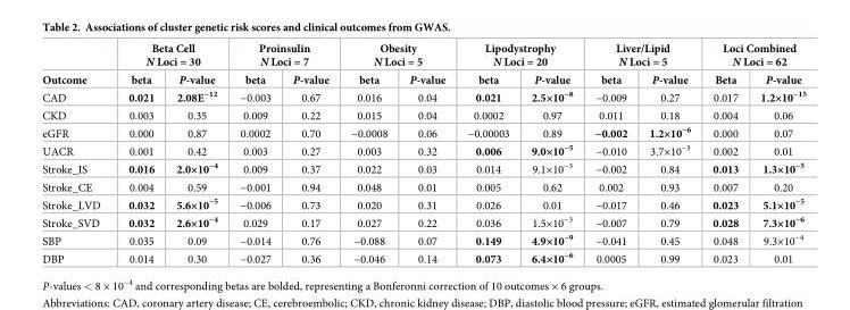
<table><thead><tr><td rowspan="2">Outcome</td><td colspan="2">Beta Cell N Loci = 30</td><td colspan="2">Proinsulin N Loci = 7</td><td colspan="2">Obesity N Loci = 5</td><td colspan="2">Lipodystrophy N Loci = 20</td><td colspan="2">Liver/Lipid N Loci = 5</td><td colspan="2">Loci Combined N Loci = 62</td></tr><tr><td>beta</td><td>P-value</td><td>beta</td><td>P-value</td><td>beta</td><td>P-value</td><td>beta</td><td>P-value</td><td>beta</td><td>P-value</td><td>Beta</td><td>P-value</td></tr></thead><tbody><tr><td>CAD</td><td>0.021</td><td>2.08E<sup>−12</sup></td><td>−0.003</td><td>0.67</td><td>0.016</td><td>0.04</td><td>0.021</td><td>2.5×10<sup>−8</sup></td><td>−0.009</td><td>0.27</td><td>0.017</td><td>1.2×10<sup>−15</sup></td></tr><tr><td>CKD</td><td>0.003</td><td>0.35</td><td>0.009</td><td>0.22</td><td>0.015</td><td>0.04</td><td>0.0002</td><td>0.97</td><td>0.011</td><td>0.18</td><td>0.004</td><td>0.06</td></tr><tr><td>eGFR</td><td>0.000</td><td>0.87</td><td>0.0002</td><td>0.70</td><td>−0.0008</td><td>0.06</td><td>−0.00003</td><td>0.89</td><td>−0.002</td><td>1.2×10<sup>−6</sup></td><td>0.000</td><td>0.07</td></tr><tr><td>UACR</td><td>0.001</td><td>0.42</td><td>0.003</td><td>0.27</td><td>0.003</td><td>0.32</td><td>0.006</td><td>9.0×10<sup>−5</sup></td><td>−0.010</td><td>3.7×10<sup>−3</sup></td><td>0.002</td><td>0.01</td></tr><tr><td>Stroke_IS</td><td>0.016</td><td>2.0×10<sup>−4</sup></td><td>0.009</td><td>0.37</td><td>0.022</td><td>0.03</td><td>0.014</td><td>9.1×10<sup>−3</sup></td><td>−0.002</td><td>0.84</td><td>0.013</td><td>1.3×10<sup>−5</sup></td></tr><tr><td>Stroke_CE</td><td>0.004</td><td>0.59</td><td>−0.001</td><td>0.94</td><td>0.048</td><td>0.01</td><td>0.005</td><td>0.62</td><td>0.002</td><td>0.93</td><td>0.007</td><td>0.20</td></tr><tr><td>Stroke_LVD</td><td>0.032</td><td>5.6×10<sup>−5</sup></td><td>−0.006</td><td>0.73</td><td>0.020</td><td>0.31</td><td>0.026</td><td>0.01</td><td>−0.017</td><td>0.46</td><td>0.023</td><td>5.1×10<sup>−5</sup></td></tr><tr><td>Stroke_SVD</td><td>0.032</td><td>2.6×10<sup>−4</sup></td><td>0.029</td><td>0.17</td><td>0.027</td><td>0.22</td><td>0.036</td><td>1.5×10<sup>−3</sup></td><td>−0.007</td><td>0.79</td><td>0.028</td><td>7.3×10<sup>−6</sup></td></tr><tr><td>SBP</td><td>0.035</td><td>0.09</td><td>−0.014</td><td>0.76</td><td>−0.088</td><td>0.07</td><td>0.149</td><td>4.9×10<sup>−9</sup></td><td>−0.041</td><td>0.45</td><td>0.048</td><td>9.3×10<sup>−4</sup></td></tr><tr><td>DBP</td><td>0.014</td><td>0.30</td><td>−0.027</td><td>0.36</td><td>−0.046</td><td>0.14</td><td>0.073</td><td>6.4×10<sup>−6</sup></td><td>0.0005</td><td>0.99</td><td>0.023</td><td>0.01</td></tr></tbody></table>